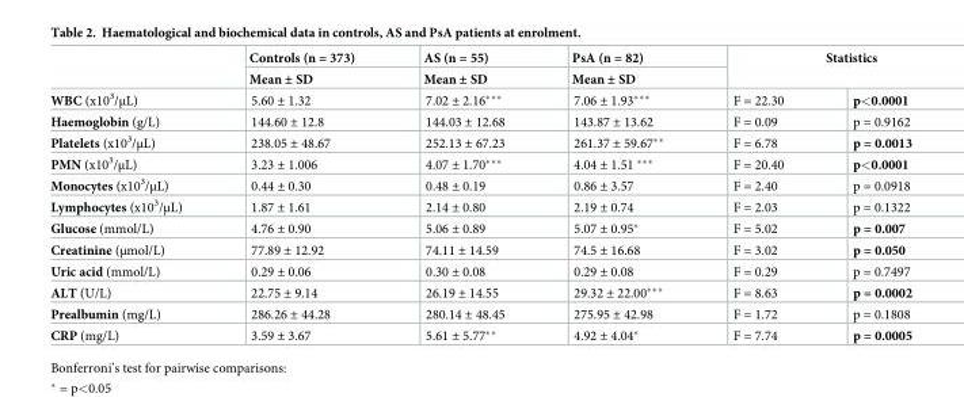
<table><thead><tr><td rowspan="3">WBC (x10<sup>3</sup>/μL)</td><td rowspan="3">Controls (n = 373) Mean ± SD 5.60 ± 1.32</td><td rowspan="3">AS (n = 55) Mean ± SD 7.02 ± 2.16***</td><td rowspan="3">PsA (n = 82) Mean ± SD 7.06 ± 1.93***</td><td rowspan="2" colspan="2">Statistics</td></tr><tr></tr><tr><td>F = 22.30</td><td>p&lt;0.0001</td></tr></thead><tbody><tr><td>Haemoglobin (g/L)</td><td>144.60 ± 12.8</td><td>144.03 ± 12.68</td><td>143.87 ± 13.62</td><td>F = 0.09</td><td>p = 0.9162</td></tr><tr><td>Platelets (x10<sup>3</sup>/μL)</td><td>238.05 ± 48.67</td><td>252.13 ± 67.23</td><td>261.37 ± 59.67**</td><td>F = 6.78</td><td>p = 0.0013</td></tr><tr><td>PMN (x10<sup>3</sup>/μL)</td><td>3.23 ± 1.006</td><td>4.07 ± 1.70***</td><td>4.04 ± 1.51 ***</td><td>F = 20.40</td><td>p&lt;0.0001</td></tr><tr><td>Monocytes (x10<sup>3</sup>/μL)</td><td>0.44 ± 0.30</td><td>0.48 ± 0.19</td><td>0.86 ± 3.57</td><td>F = 2.40</td><td>p = 0.0918</td></tr><tr><td>Lymphocytes (x10<sup>3</sup>/μL)</td><td>1.87 ± 1.61</td><td>2.14 ± 0.80</td><td>2.19 ± 0.74</td><td>F = 2.03</td><td>p = 0.1322</td></tr><tr><td>Glucose (mmol/L)</td><td>4.76 ± 0.90</td><td>5.06 ± 0.89</td><td>5.07 ± 0.95*</td><td>F = 5.02</td><td>p = 0.007</td></tr><tr><td>Creatinine (μmol/L)</td><td>77.89 ± 12.92</td><td>74.11 ± 14.59</td><td>74.5 ± 16.68</td><td>F = 3.02</td><td>p = 0.050</td></tr><tr><td>Uric acid (mmol/L)</td><td>0.29 ± 0.06</td><td>0.30 ± 0.08</td><td>0.29 ± 0.08</td><td>F = 0.29</td><td>p = 0.7497</td></tr><tr><td>ALT (U/L)</td><td>22.75 ± 9.14</td><td>26.19 ± 14.55</td><td>29.32 ± 22.00***</td><td>F = 8.63</td><td>p = 0.0002</td></tr><tr><td>Prealbumin (mg/L)</td><td>286.26 ± 44.28</td><td>280.14 ± 48.45</td><td>275.95 ± 42.98</td><td>F = 1.72</td><td>p = 0.1808</td></tr><tr><td>CRP (mg/L)</td><td>3.59 ± 3.67</td><td>5.61 ± 5.77**</td><td>4.92 ± 4.04*</td><td>F = 7.74</td><td>p = 0.0005</td></tr></tbody></table>